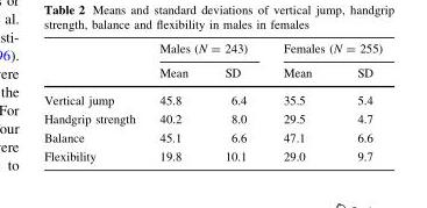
<table><thead><tr><td rowspan="2"></td><td colspan="2">Males (N = 243)</td><td colspan="2">Females (N = 255)</td></tr><tr><td>Mean</td><td>SD</td><td>Mean</td><td>SD</td></tr></thead><tbody><tr><td>Vertical jump</td><td>45.8</td><td>6.4</td><td>35.5</td><td>5.4</td></tr><tr><td>Handgrip strength</td><td>40.2</td><td>8.0</td><td>29.5</td><td>4.7</td></tr><tr><td>Balance</td><td>45.1</td><td>6.6</td><td>47.1</td><td>6.6</td></tr><tr><td>Flexibility</td><td>19.8</td><td>10.1</td><td>29.0</td><td>9.7</td></tr></tbody></table>